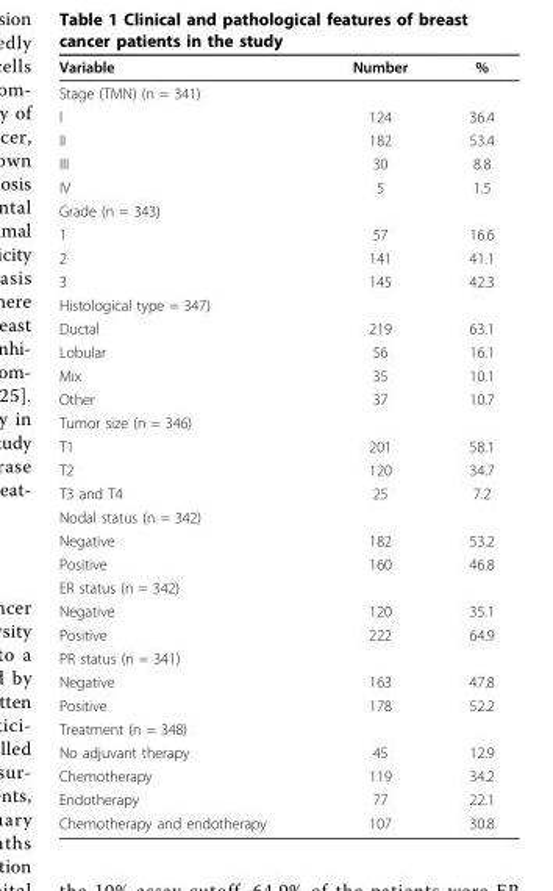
<table><thead><tr><td>Variable</td><td>Number</td><td>%</td></tr></thead><tbody><tr><td colspan="3">Stage (TMN) (n = 341)</td></tr><tr><td>I</td><td>124</td><td>36.4</td></tr><tr><td>II</td><td>182</td><td>53.4</td></tr><tr><td>III</td><td>30</td><td>8.8</td></tr><tr><td>IV</td><td>5</td><td>1.5</td></tr><tr><td colspan="3">Grade (n = 343)</td></tr><tr><td>1</td><td>57</td><td>16.6</td></tr><tr><td>2</td><td>141</td><td>41.1</td></tr><tr><td>3</td><td>145</td><td>42.3</td></tr><tr><td colspan="3">Histological type = 347)</td></tr><tr><td>Ductal</td><td>219</td><td>63.1</td></tr><tr><td>Lobular</td><td>56</td><td>16.1</td></tr><tr><td>Mix</td><td>35</td><td>10.1</td></tr><tr><td>Other</td><td>37</td><td>10.7</td></tr><tr><td colspan="3">Tumor size (n = 346)</td></tr><tr><td>T1</td><td>201</td><td>58.1</td></tr><tr><td>T2</td><td>120</td><td>34.7</td></tr><tr><td>T3 and T4</td><td>25</td><td>7.2</td></tr><tr><td colspan="3">Nodal status (n = 342)</td></tr><tr><td>Negative</td><td>182</td><td>53.2</td></tr><tr><td>Positive</td><td>160</td><td>46.8</td></tr><tr><td colspan="3">ER status (n = 342)</td></tr><tr><td>Negative</td><td>120</td><td>35.1</td></tr><tr><td>Positive</td><td>222</td><td>64.9</td></tr><tr><td colspan="3">PR status (n = 341)</td></tr><tr><td>Negative</td><td>163</td><td>47.8</td></tr><tr><td>Positive</td><td>178</td><td>52.2</td></tr><tr><td colspan="3">Treatment (n = 348)</td></tr><tr><td>No adjuvant therapy</td><td>45</td><td>12.9</td></tr><tr><td>Chemotherapy</td><td>119</td><td>34.2</td></tr><tr><td>Endotherapy</td><td>77</td><td>22.1</td></tr><tr><td>Chemotherapy and endotherapy</td><td>107</td><td>30.8</td></tr></tbody></table>